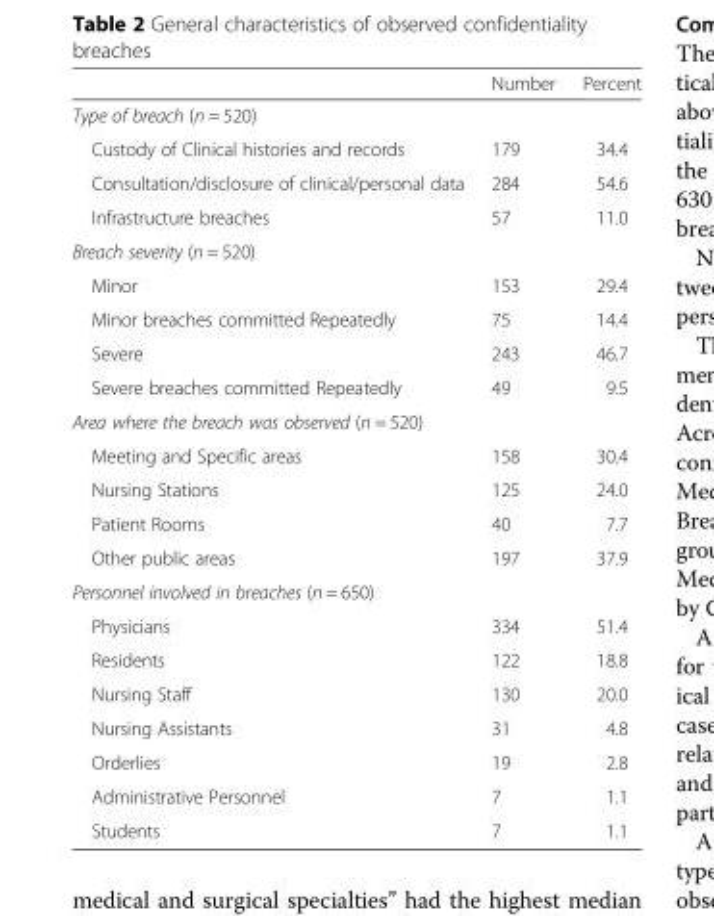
<table><thead><tr><td></td><td>Number</td><td>Percent</td></tr></thead><tbody><tr><td colspan="3">Type of breach (n = 520)</td></tr><tr><td>Custody of Clinical histories and records</td><td>179</td><td>34.4</td></tr><tr><td>Consultation/disclosure of clinical/personal data</td><td>284</td><td>54.6</td></tr><tr><td>Infrastructure breaches</td><td>57</td><td>11.0</td></tr><tr><td colspan="3">Breach severity (n = 520)</td></tr><tr><td>Minor</td><td>153</td><td>29.4</td></tr><tr><td>Minor breaches committed Repeatedly</td><td>75</td><td>14.4</td></tr><tr><td>Severe</td><td>243</td><td>46.7</td></tr><tr><td>Severe breaches committed Repeatedly</td><td>49</td><td>9.5</td></tr><tr><td colspan="3">Area where the breach was observed (n = 520)</td></tr><tr><td>Meeting and Specific areas</td><td>158</td><td>30.4</td></tr><tr><td>Nursing Stations</td><td>125</td><td>24.0</td></tr><tr><td>Patient Rooms</td><td>40</td><td>7.7</td></tr><tr><td>Other public areas</td><td>197</td><td>37.9</td></tr><tr><td colspan="3">Personnel involved in breaches (n = 650)</td></tr><tr><td>Physicians</td><td>334</td><td>51.4</td></tr><tr><td>Residents</td><td>122</td><td>18.8</td></tr><tr><td>Nursing Staff</td><td>130</td><td>20.0</td></tr><tr><td>Nursing Assistants</td><td>31</td><td>4.8</td></tr><tr><td>Orderlies</td><td>19</td><td>2.8</td></tr><tr><td>Administrative Personnel</td><td>7</td><td>1.1</td></tr><tr><td>Students</td><td>7</td><td>1.1</td></tr></tbody></table>